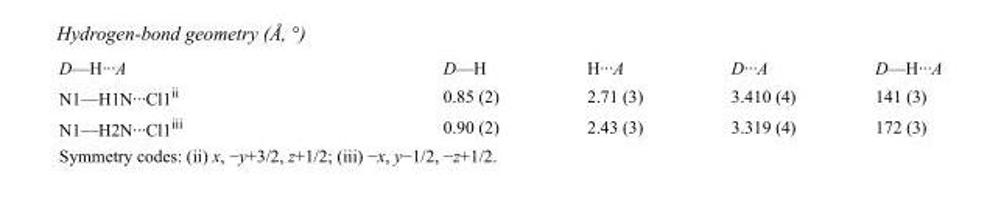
<table><tbody><tr><td>D—H···A</td><td>D—H</td><td>H···A</td><td>D···A</td><td>D—H···A</td></tr><tr><td>N1—H1N···Cl1<sup>ii</sup></td><td>0.85 (2)</td><td>2.71 (3)</td><td>3.410 (4)</td><td>141 (3)</td></tr><tr><td>N1—H2N···Cl1<sup>iii</sup></td><td>0.90 (2)</td><td>2.43 (3)</td><td>3.319 (4)</td><td>172 (3)</td></tr></tbody></table>